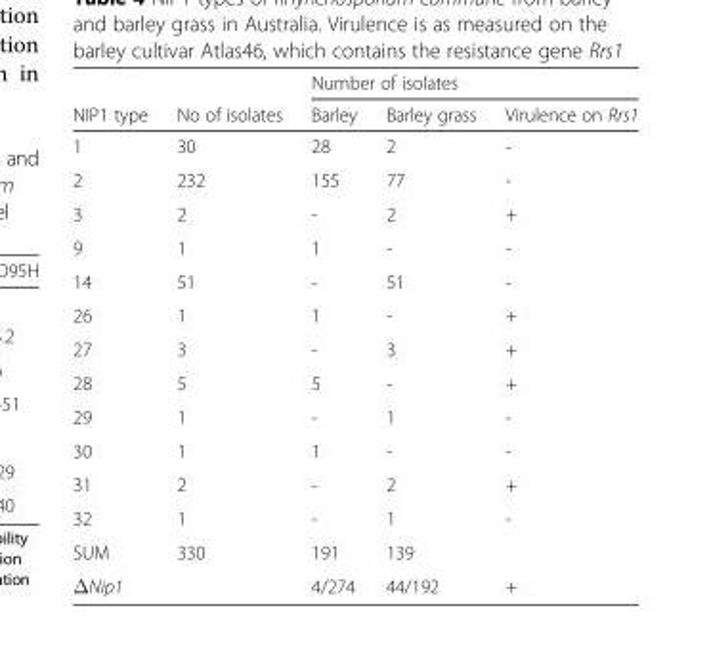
<table><thead><tr><td rowspan="2">NIP1 type</td><td rowspan="2">No of isolates</td><td colspan="3">Number of isolates</td></tr><tr><td>Barley</td><td>Barley grass</td><td>Virulence on Rrs1</td></tr></thead><tbody><tr><td>1</td><td>30</td><td>28</td><td>2</td><td>-</td></tr><tr><td>2</td><td>232</td><td>155</td><td>77</td><td>-</td></tr><tr><td>3</td><td>2</td><td>-</td><td>2</td><td>+</td></tr><tr><td>9</td><td>1</td><td>1</td><td>-</td><td>-</td></tr><tr><td>14</td><td>51</td><td>-</td><td>51</td><td>-</td></tr><tr><td>26</td><td>1</td><td>1</td><td>-</td><td>+</td></tr><tr><td>27</td><td>3</td><td>-</td><td>3</td><td>+</td></tr><tr><td>28</td><td>5</td><td>5</td><td>-</td><td>+</td></tr><tr><td>29</td><td>1</td><td>-</td><td>1</td><td>-</td></tr><tr><td>30</td><td>1</td><td>1</td><td>-</td><td>-</td></tr><tr><td>31</td><td>2</td><td>-</td><td>2</td><td>+</td></tr><tr><td>32</td><td>1</td><td>-</td><td>1</td><td>-</td></tr><tr><td>SUM</td><td>330</td><td>191</td><td>139</td><td></td></tr><tr><td>ΔNip1</td><td></td><td>4/274</td><td>44/192</td><td>+</td></tr></tbody></table>